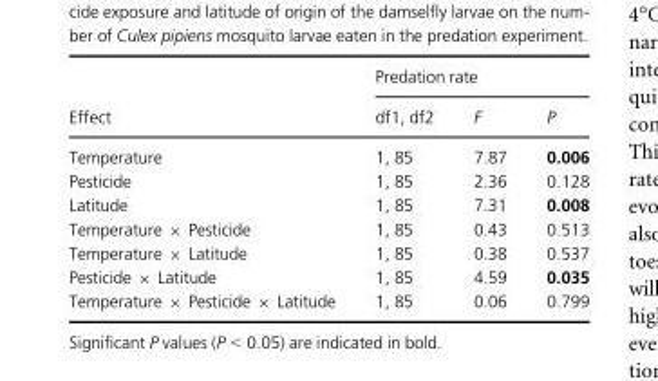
<table><thead><tr><td rowspan="2">Effect</td><td colspan="3">Predation rate</td></tr><tr><td>df1, df2</td><td>F</td><td>P</td></tr></thead><tbody><tr><td>Temperature</td><td>1, 85</td><td>7.87</td><td>0.006</td></tr><tr><td>Pesticide</td><td>1, 85</td><td>2.36</td><td>0.128</td></tr><tr><td>Latitude</td><td>1, 85</td><td>7.31</td><td>0.008</td></tr><tr><td>Temperature × Pesticide</td><td>1, 85</td><td>0.43</td><td>0.513</td></tr><tr><td>Temperature × Latitude</td><td>1, 85</td><td>0.38</td><td>0.537</td></tr><tr><td>Pesticide × Latitude</td><td>1, 85</td><td>4.59</td><td>0.035</td></tr><tr><td>Temperature × Pesticide × Latitude</td><td>1, 85</td><td>0.06</td><td>0.799</td></tr></tbody></table>